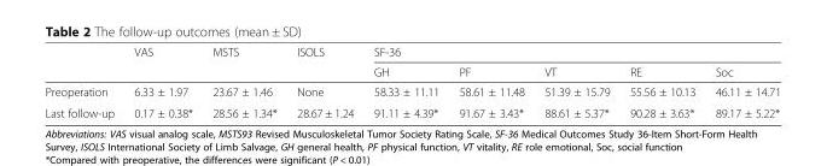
<table><thead><tr><td rowspan="2"></td><td rowspan="2">VAS</td><td rowspan="2">MSTS</td><td rowspan="2">ISOLS</td><td colspan="5">SF-36</td></tr><tr><td>GH</td><td>PF</td><td>VT</td><td>RE</td><td>Soc</td></tr></thead><tbody><tr><td>Preoperation</td><td>6.33 ± 1.97</td><td>23.67 ± 1.46</td><td>None</td><td>58.33 ± 11.11</td><td>58.61 ± 11.48</td><td>51.39 ± 15.79</td><td>55.56 ± 10.13</td><td>46.11 ± 14.71</td></tr><tr><td>Last follow-up</td><td>0.17 ± 0.38*</td><td>28.56 ± 1.34*</td><td>28.67 ± 1.24</td><td>91.11 ± 4.39*</td><td>91.67 ± 3.43*</td><td>88.61 ± 5.37*</td><td>90.28 ± 3.63*</td><td>89.17 ± 5.22*</td></tr></tbody></table>